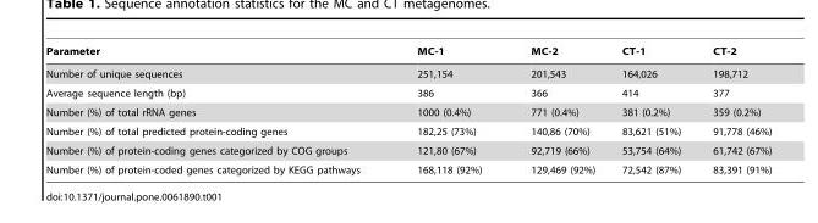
<table><thead><tr><td>Parameter</td><td>MC-1</td><td>MC-2</td><td>CT-1</td><td>CT-2</td></tr></thead><tbody><tr><td>Number of unique sequences</td><td>251,154</td><td>201,543</td><td>164,026</td><td>198,712</td></tr><tr><td>Average sequence length (bp)</td><td>386</td><td>366</td><td>414</td><td>377</td></tr><tr><td>Number (%) of total rRNA genes</td><td>1000 (0.4%)</td><td>771 (0.4%)</td><td>381 (0.2%)</td><td>359 (0.2%)</td></tr><tr><td>Number (%) of total predicted protein-coding genes</td><td>182,25 (73%)</td><td>140,86 (70%)</td><td>83,621 (51%)</td><td>91,778 (46%)</td></tr><tr><td>Number (%) of protein-coding genes categorized by COG groups</td><td>121,80 (67%)</td><td>92,719 (66%)</td><td>53,754 (64%)</td><td>61,742 (67%)</td></tr><tr><td>Number (%) of protein-coded genes categorized by KEGG pathways</td><td>168,118 (92%)</td><td>129,469 (92%)</td><td>72,542 (87%)</td><td>83,391 (91%)</td></tr></tbody></table>